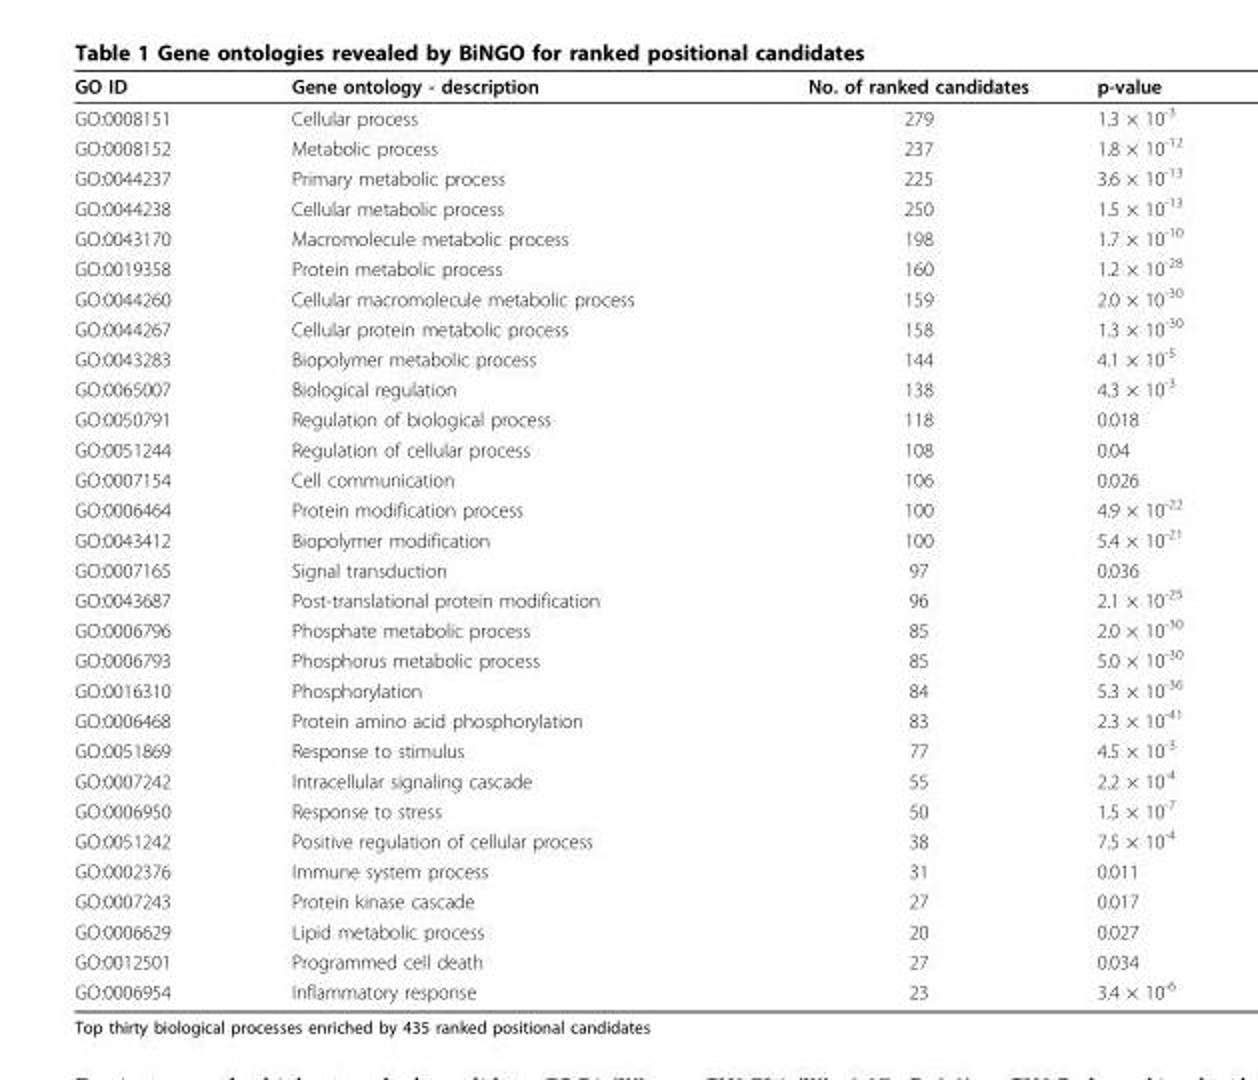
<table><thead><tr><td>GO ID</td><td>Gene ontology - description</td><td>No. of ranked candidates</td><td>p-value</td></tr></thead><tbody><tr><td>GO:0008151</td><td>Cellular process</td><td>279</td><td>1.3 × 10<sup>-3</sup></td></tr><tr><td>GO:0008152</td><td>Metabolic process</td><td>237</td><td>1.8 × 10<sup>-12</sup></td></tr><tr><td>GO:0044237</td><td>Primary metabolic process</td><td>225</td><td>3.6 × 10<sup>-13</sup></td></tr><tr><td>GO:0044238</td><td>Cellular metabolic process</td><td>250</td><td>1.5 × 10<sup>-13</sup></td></tr><tr><td>GO:0043170</td><td>Macromolecule metabolic process</td><td>198</td><td>1.7 × 10<sup>-10</sup></td></tr><tr><td>GO:0019358</td><td>Protein metabolic process</td><td>160</td><td>1.2 × 10<sup>-28</sup></td></tr><tr><td>GO:0044260</td><td>Cellular macromolecule metabolic process</td><td>159</td><td>2.0 × 10<sup>-30</sup></td></tr><tr><td>GO:0044267</td><td>Cellular protein metabolic process</td><td>158</td><td>1.3 × 10<sup>-30</sup></td></tr><tr><td>GO:0043283</td><td>Biopolymer metabolic process</td><td>144</td><td>4.1 × 10<sup>-5</sup></td></tr><tr><td>GO:0065007</td><td>Biological regulation</td><td>138</td><td>4.3 × 10<sup>-3</sup></td></tr><tr><td>GO:0050791</td><td>Regulation of biological process</td><td>118</td><td>0.018</td></tr><tr><td>GO:0051244</td><td>Regulation of cellular process</td><td>108</td><td>0.04</td></tr><tr><td>GO:0007154</td><td>Cell communication</td><td>106</td><td>0.026</td></tr><tr><td>GO:0006464</td><td>Protein modification process</td><td>100</td><td>4.9 × 10<sup>-22</sup></td></tr><tr><td>GO:0043412</td><td>Biopolymer modification</td><td>100</td><td>5.4 × 10<sup>-21</sup></td></tr><tr><td>GO:0007165</td><td>Signal transduction</td><td>97</td><td>0.036</td></tr><tr><td>GO:0043687</td><td>Post-translational protein modification</td><td>96</td><td>2.1 × 10<sup>-25</sup></td></tr><tr><td>GO:0006796</td><td>Phosphate metabolic process</td><td>85</td><td>2.0 × 10<sup>-30</sup></td></tr><tr><td>GO:0006793</td><td>Phosphorus metabolic process</td><td>85</td><td>5.0 × 10<sup>-30</sup></td></tr><tr><td>GO:0016310</td><td>Phosphorylation</td><td>84</td><td>5.3 × 10<sup>-36</sup></td></tr><tr><td>GO:0006468</td><td>Protein amino acid phosphorylation</td><td>83</td><td>2.3 × 10<sup>-41</sup></td></tr><tr><td>GO:0051869</td><td>Response to stimulus</td><td>77</td><td>4.5 × 10<sup>-3</sup></td></tr><tr><td>GO:0007242</td><td>Intracellular signaling cascade</td><td>55</td><td>2.2 × 10<sup>-4</sup></td></tr><tr><td>GO:0006950</td><td>Response to stress</td><td>50</td><td>1.5 × 10<sup>-7</sup></td></tr><tr><td>GO:0051242</td><td>Positive regulation of cellular process</td><td>38</td><td>7.5 × 10<sup>-4</sup></td></tr><tr><td>GO:0002376</td><td>Immune system process</td><td>31</td><td>0.011</td></tr><tr><td>GO:0007243</td><td>Protein kinase cascade</td><td>27</td><td>0.017</td></tr><tr><td>GO:0006629</td><td>Lipid metabolic process</td><td>20</td><td>0.027</td></tr><tr><td>GO:0012501</td><td>Programmed cell death</td><td>27</td><td>0.034</td></tr><tr><td>GO:0006954</td><td>Inflammatory response</td><td>23</td><td>3.4 × 10<sup>-6</sup></td></tr></tbody></table>